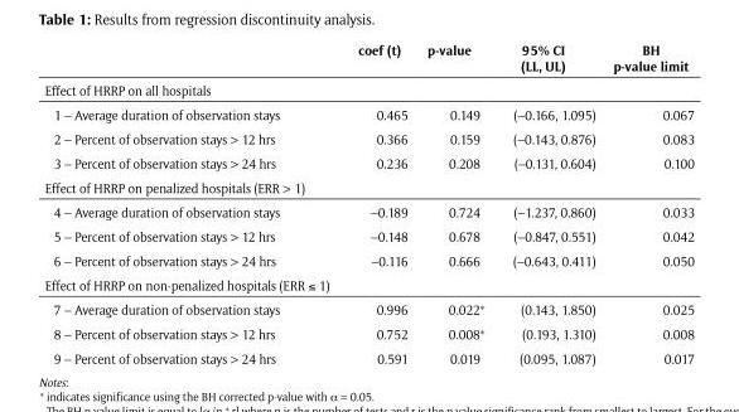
<table><thead><tr><td></td><td>coef (t)</td><td>p-value</td><td>95% CI (LL, UL)</td><td>BH p-value limit</td></tr></thead><tbody><tr><td colspan="5">Effect of HRRP on all hospitals</td></tr><tr><td>1 – Average duration of observation stays</td><td>0.465</td><td>0.149</td><td>(–0.166, 1.095)</td><td>0.067</td></tr><tr><td>2 – Percent of observation stays &gt; 12 hrs</td><td>0.366</td><td>0.159</td><td>(–0.143, 0.876)</td><td>0.083</td></tr><tr><td>3 – Percent of observation stays &gt; 24 hrs</td><td>0.236</td><td>0.208</td><td>(–0.131, 0.604)</td><td>0.100</td></tr><tr><td colspan="5">Effect of HRRP on penalized hospitals (ERR &gt; 1)</td></tr><tr><td>4 – Average duration of observation stays</td><td>–0.189</td><td>0.724</td><td>(–1.237, 0.860)</td><td>0.033</td></tr><tr><td>5 – Percent of observation stays &gt; 12 hrs</td><td>–0.148</td><td>0.678</td><td>(–0.847, 0.551)</td><td>0.042</td></tr><tr><td>6 – Percent of observation stays &gt; 24 hrs</td><td>–0.116</td><td>0.666</td><td>(–0.643, 0.411)</td><td>0.050</td></tr><tr><td colspan="5">Effect of HRRP on non-penalized hospitals (ERR ≤ 1)</td></tr><tr><td>7 – Average duration of observation stays</td><td>0.996</td><td>0.022*</td><td>(0.143, 1.850)</td><td>0.025</td></tr><tr><td>8 – Percent of observation stays &gt; 12 hrs</td><td>0.752</td><td>0.008*</td><td>(0.193, 1.310)</td><td>0.008</td></tr><tr><td>9 – Percent of observation stays &gt; 24 hrs</td><td>0.591</td><td>0.019</td><td>(0.095, 1.087)</td><td>0.017</td></tr></tbody></table>